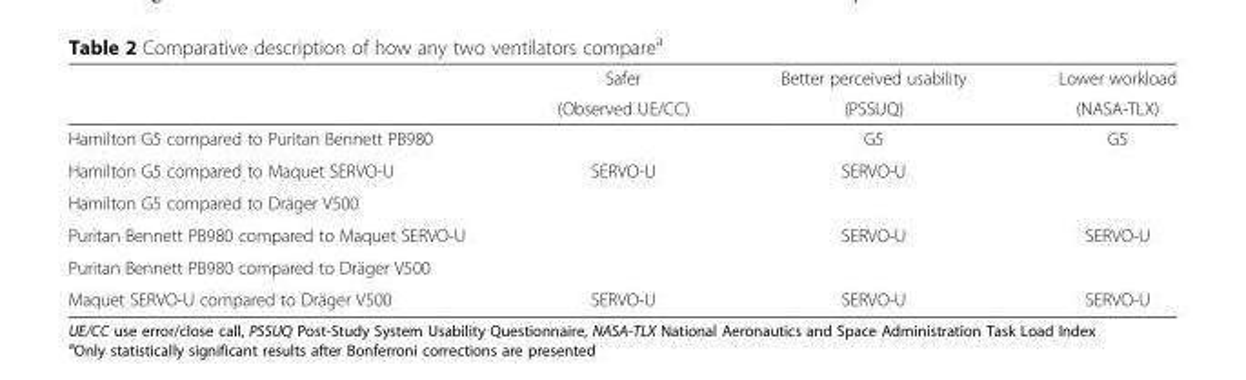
<table><thead><tr><td rowspan="2"></td><td rowspan="2">Safer (Observed UE/CC)</td><td rowspan="2">Better perceived usability (PSSUQ)</td><td rowspan="2">Lower workload (NASA-TLX)</td></tr><tr></tr></thead><tbody><tr><td>Hamilton G5 compared to Puritan Bennett PB980</td><td></td><td>G5</td><td>G5</td></tr><tr><td>Hamilton G5 compared to Maquet SERVO-U</td><td>SERVO-U</td><td>SERVO-U</td><td></td></tr><tr><td colspan="4">Hamilton G5 compared to Dräger V500</td></tr><tr><td>Puritan Bennett PB980 compared to Maquet SERVO-U</td><td></td><td>SERVO-U</td><td>SERVO-U</td></tr><tr><td colspan="4">Puritan Bennett PB980 compared to Dräger V500</td></tr><tr><td>Maquet SERVO-U compared to Dräger V500</td><td>SERVO-U</td><td>SERVO-U</td><td>SERVO-U</td></tr></tbody></table>